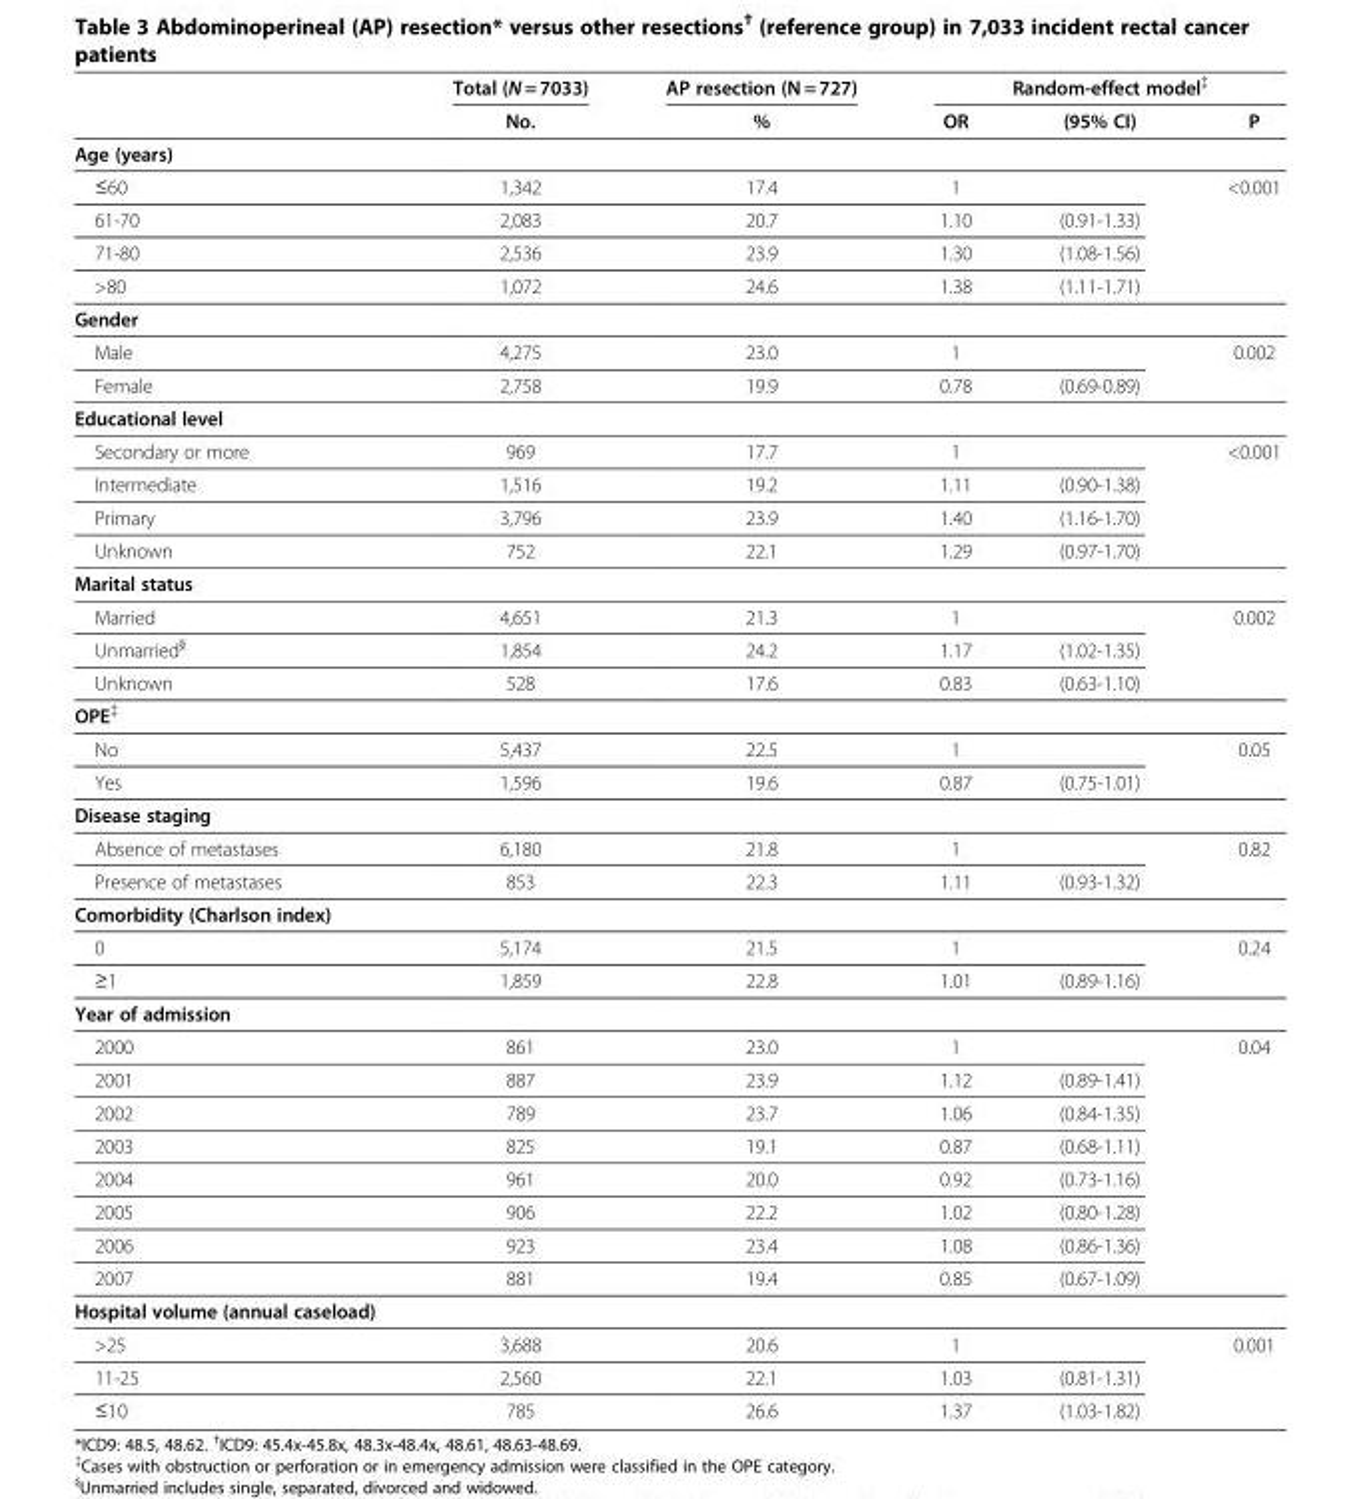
<table><thead><tr><td rowspan="2"></td><td rowspan="2">Total (N = 7033) No.</td><td rowspan="2">AP resection (N = 727) %</td><td colspan="3">Random-effect model<sup>‡</sup></td></tr><tr><td>OR</td><td>(95% CI)</td><td>P</td></tr></thead><tbody><tr><td colspan="6">Age (years)</td></tr><tr><td>≤60</td><td>1,342</td><td>17.4</td><td>1</td><td></td><td>&lt;0.001</td></tr><tr><td>61-70</td><td>2,083</td><td>20.7</td><td>1.10</td><td>(0.91-1.33)</td><td></td></tr><tr><td>71-80</td><td>2,536</td><td>23.9</td><td>1.30</td><td>(1.08-1.56)</td><td></td></tr><tr><td>&gt;80</td><td>1,072</td><td>24.6</td><td>1.38</td><td>(1.11-1.71)</td><td></td></tr><tr><td colspan="6">Gender</td></tr><tr><td>Male</td><td>4,275</td><td>23.0</td><td>1</td><td></td><td>0.002</td></tr><tr><td>Female</td><td>2,758</td><td>19.9</td><td>0.78</td><td>(0.69-0.89)</td><td></td></tr><tr><td colspan="6">Educational level</td></tr><tr><td>Secondary or more</td><td>969</td><td>17.7</td><td>1</td><td></td><td>&lt;0.001</td></tr><tr><td>Intermediate</td><td>1,516</td><td>19.2</td><td>1.11</td><td>(0.90-1.38)</td><td></td></tr><tr><td>Primary</td><td>3,796</td><td>23.9</td><td>1.40</td><td>(1.16-1.70)</td><td></td></tr><tr><td>Unknown</td><td>752</td><td>22.1</td><td>1.29</td><td>(0.97-1.70)</td><td></td></tr><tr><td colspan="6">Marital status</td></tr><tr><td>Married</td><td>4,651</td><td>21.3</td><td>1</td><td></td><td>0.002</td></tr><tr><td>Unmarried<sup>§</sup></td><td>1,854</td><td>24.2</td><td>1.17</td><td>(1.02-1.35)</td><td></td></tr><tr><td>Unknown</td><td>528</td><td>17.6</td><td>0.83</td><td>(0.63-1.10)</td><td></td></tr><tr><td colspan="6">OPE<sup>‡</sup></td></tr><tr><td>No</td><td>5,437</td><td>22.5</td><td>1</td><td></td><td>0.05</td></tr><tr><td>Yes</td><td>1,596</td><td>19.6</td><td>0.87</td><td>(0.75-1.01)</td><td></td></tr><tr><td colspan="6">Disease staging</td></tr><tr><td>Absence of metastases</td><td>6,180</td><td>21.8</td><td>1</td><td></td><td>0.82</td></tr><tr><td>Presence of metastases</td><td>853</td><td>22.3</td><td>1.11</td><td>(0.93-1.32)</td><td></td></tr><tr><td colspan="6">Comorbidity (Charlson index)</td></tr><tr><td>0</td><td>5,174</td><td>21.5</td><td>1</td><td></td><td>0.24</td></tr><tr><td>≥1</td><td>1,859</td><td>22.8</td><td>1.01</td><td>(0.89-1.16)</td><td></td></tr><tr><td colspan="6">Year of admission</td></tr><tr><td>2000</td><td>861</td><td>23.0</td><td>1</td><td></td><td>0.04</td></tr><tr><td>2001</td><td>887</td><td>23.9</td><td>1.12</td><td>(0.89-1.41)</td><td></td></tr><tr><td>2002</td><td>789</td><td>23.7</td><td>1.06</td><td>(0.84-1.35)</td><td></td></tr><tr><td>2003</td><td>825</td><td>19.1</td><td>0.87</td><td>(0.68-1.11)</td><td></td></tr><tr><td>2004</td><td>961</td><td>20.0</td><td>0.92</td><td>(0.73-1.16)</td><td></td></tr><tr><td>2005</td><td>906</td><td>22.2</td><td>1.02</td><td>(0.80-1.28)</td><td></td></tr><tr><td>2006</td><td>923</td><td>23.4</td><td>1.08</td><td>(0.86-1.36)</td><td></td></tr><tr><td>2007</td><td>881</td><td>19.4</td><td>0.85</td><td>(0.67-1.09)</td><td></td></tr><tr><td colspan="6">Hospital volume (annual caseload)</td></tr><tr><td>&gt;25</td><td>3,688</td><td>20.6</td><td>1</td><td></td><td>0.001</td></tr><tr><td>11-25</td><td>2,560</td><td>22.1</td><td>1.03</td><td>(0.81-1.31)</td><td></td></tr><tr><td>≤10</td><td>785</td><td>26.6</td><td>1.37</td><td>(1.03-1.82)</td><td></td></tr></tbody></table>